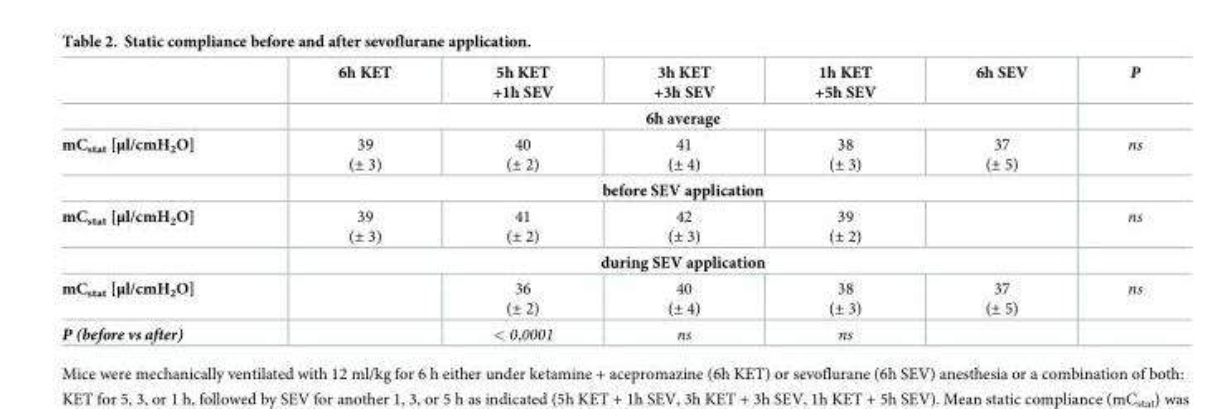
<table><thead><tr><td></td><td>6h KET</td><td>5h KET +1h SEV</td><td>3h KET +3h SEV</td><td>1h KET +5h SEV</td><td>6h SEV</td><td>P</td></tr></thead><tbody><tr><td></td><td colspan="5">6h average</td><td></td></tr><tr><td rowspan="2">mC<sub>stat</sub> [μl/cmH<sub>2</sub>O]</td><td>39 (± 3)</td><td>40 (± 2)</td><td>41 (± 4)</td><td>38 (± 3)</td><td>37 (± 5)</td><td>ns</td></tr><tr><td colspan="5">before SEV application</td><td></td></tr><tr><td rowspan="2">mC<sub>stat</sub> [μl/cmH<sub>2</sub>O]</td><td>39 (± 3)</td><td>41 (± 2)</td><td>42 (± 3)</td><td>39 (± 2)</td><td></td><td>ns</td></tr><tr><td colspan="5">during SEV application</td><td></td></tr><tr><td>mC<sub>stat</sub> [μl/cmH<sub>2</sub>O]</td><td></td><td>36 (± 2)</td><td>40 (± 4)</td><td>38 (± 3)</td><td>37 (± 5)</td><td>ns</td></tr><tr><td>P (before vs after)</td><td></td><td>&lt; 0,0001</td><td>ns</td><td>ns</td><td></td><td></td></tr></tbody></table>